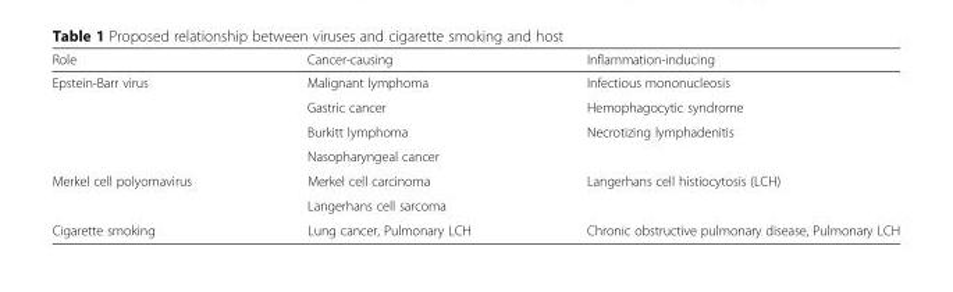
<table><thead><tr><td>Role</td><td>Cancer-causing</td><td>Inflammation-inducing</td></tr></thead><tbody><tr><td rowspan="4">Epstein-Barr virus</td><td>Malignant lymphoma</td><td>Infectious mononucleosis</td></tr><tr><td>Gastric cancer</td><td>Hemophagocytic syndrome</td></tr><tr><td>Burkitt lymphoma</td><td>Necrotizing lymphadenitis</td></tr><tr><td>Nasopharyngeal cancer</td><td></td></tr><tr><td rowspan="2">Merkel cell polyomavirus</td><td>Merkel cell carcinoma</td><td rowspan="2">Langerhans cell histiocytosis (LCH)</td></tr><tr><td>Langerhans cell sarcoma</td></tr><tr><td>Cigarette smoking</td><td>Lung cancer, Pulmonary LCH</td><td>Chronic obstructive pulmonary disease, Pulmonary LCH</td></tr></tbody></table>